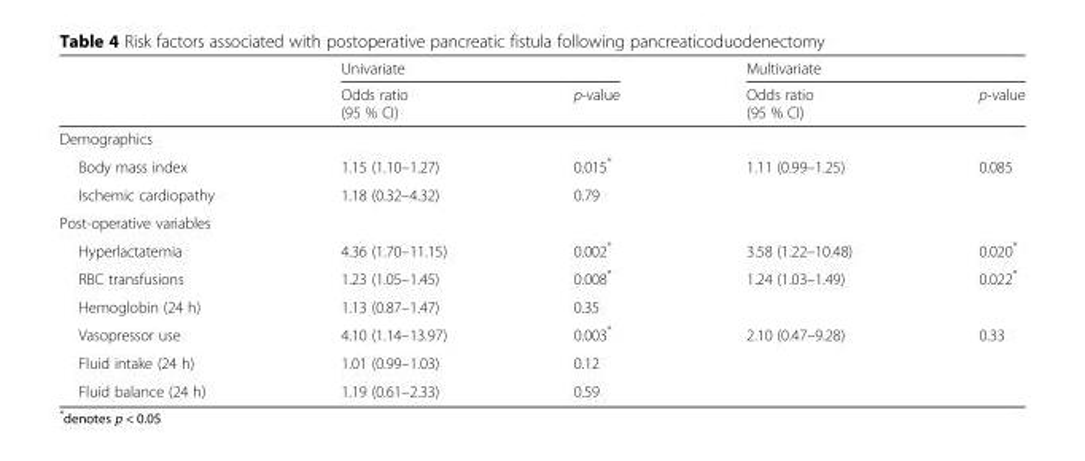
<table><thead><tr><td rowspan="2"></td><td colspan="2">Univariate</td><td colspan="2">Multivariate</td></tr><tr><td>Odds ratio (95 % CI)</td><td>p-value</td><td>Odds ratio (95 % CI)</td><td>p-value</td></tr></thead><tbody><tr><td colspan="5">Demographics</td></tr><tr><td>Body mass index</td><td>1.15 (1.10–1.27)</td><td>0.015*</td><td>1.11 (0.99–1.25)</td><td>0.085</td></tr><tr><td>Ischemic cardiopathy</td><td>1.18 (0.32–4.32)</td><td>0.79</td><td></td><td></td></tr><tr><td colspan="5">Post-operative variables</td></tr><tr><td>Hyperlactatemia</td><td>4.36 (1.70–11.15)</td><td>0.002*</td><td>3.58 (1.22–10.48)</td><td>0.020*</td></tr><tr><td>RBC transfusions</td><td>1.23 (1.05–1.45)</td><td>0.008*</td><td>1.24 (1.03–1.49)</td><td>0.022*</td></tr><tr><td>Hemoglobin (24 h)</td><td>1.13 (0.87–1.47)</td><td>0.35</td><td></td><td></td></tr><tr><td>Vasopressor use</td><td>4.10 (1.14–13.97)</td><td>0.003*</td><td>2.10 (0.47–9.28)</td><td>0.33</td></tr><tr><td>Fluid intake (24 h)</td><td>1.01 (0.99–1.03)</td><td>0.12</td><td></td><td></td></tr><tr><td>Fluid balance (24 h)</td><td>1.19 (0.61–2.33)</td><td>0.59</td><td></td><td></td></tr></tbody></table>